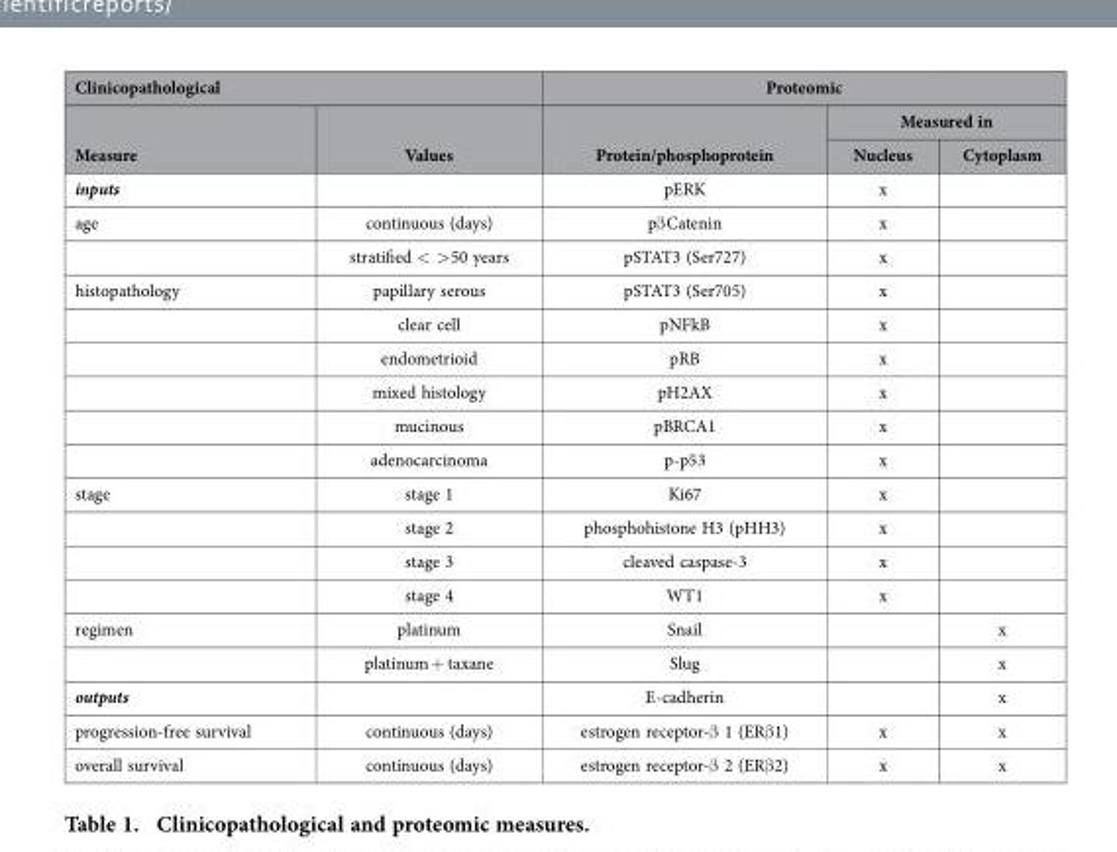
<table><thead><tr><td colspan="2">Clinicopathological</td><td colspan="3">Proteomic</td></tr><tr><td rowspan="2">Measure</td><td rowspan="2">Values</td><td rowspan="2">Protein/phosphoprotein</td><td colspan="2">Measured in</td></tr><tr><td>Nucleus</td><td>Cytoplasm</td></tr></thead><tbody><tr><td>inputs</td><td></td><td>pERK</td><td>x</td><td></td></tr><tr><td rowspan="2">age</td><td>continuous (days)</td><td>pβ Catenin</td><td>x</td><td></td></tr><tr><td>stratified &lt; &gt; 50 years</td><td>pSTAT3 (Ser727)</td><td>x</td><td></td></tr><tr><td rowspan="6">histopathology</td><td>papillary serous</td><td>pSTAT3 (Ser705)</td><td>x</td><td></td></tr><tr><td>clear cell</td><td>pNFkB</td><td>x</td><td></td></tr><tr><td>endometrioid</td><td>pRB</td><td>x</td><td></td></tr><tr><td>mixed histology</td><td>pH2AX</td><td>x</td><td></td></tr><tr><td>mucinous</td><td>pBRCA1</td><td>x</td><td></td></tr><tr><td>adenocarcinoma</td><td>p-p53</td><td>x</td><td></td></tr><tr><td rowspan="4">stage</td><td>stage 1</td><td>Ki67</td><td>x</td><td></td></tr><tr><td>stage 2</td><td>phosphohistone H3 (pHH3)</td><td>x</td><td></td></tr><tr><td>stage 3</td><td>cleaved caspase-3</td><td>x</td><td></td></tr><tr><td>stage 4</td><td>WT1</td><td>x</td><td></td></tr><tr><td rowspan="2">regimen</td><td>platinum</td><td>Snail</td><td></td><td>x</td></tr><tr><td>platinum + taxane</td><td>Slug</td><td></td><td>x</td></tr><tr><td>outputs</td><td></td><td>E-cadherin</td><td></td><td>x</td></tr><tr><td>progression-free survival</td><td>continuous (days)</td><td>estrogen receptor-β 1 (ERβ 1)</td><td>x</td><td>x</td></tr><tr><td>overall survival</td><td>continuous (days)</td><td>estrogen receptor-β 2 (ERβ 2)</td><td>x</td><td>x</td></tr></tbody></table>